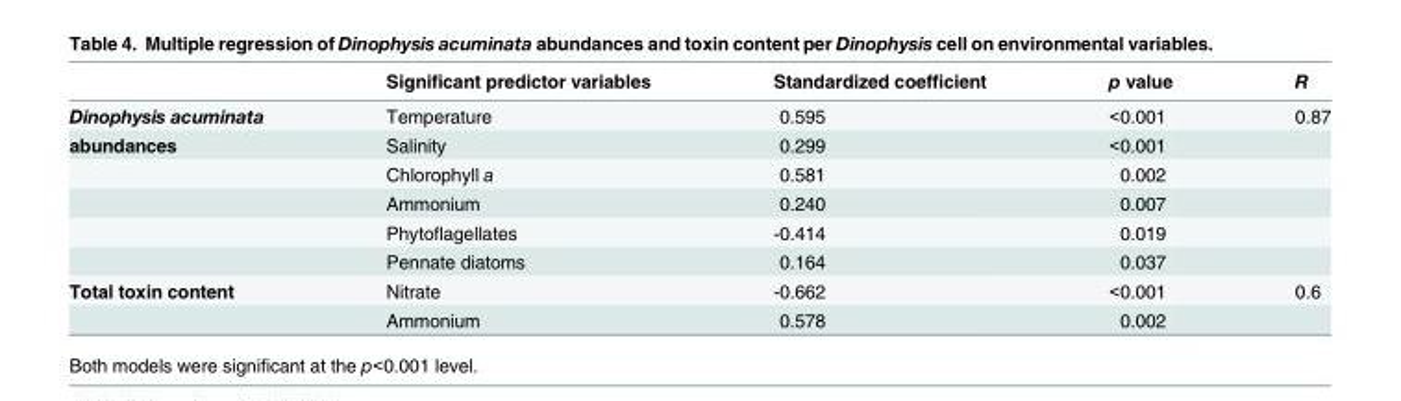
<table><thead><tr><td></td><td>Significant predictor variables</td><td>Standardized coefficient</td><td>p value</td><td>R</td></tr></thead><tbody><tr><td>Dinophysis acuminata</td><td>Temperature</td><td>0.595</td><td>&lt;0.001</td><td>0.87</td></tr><tr><td rowspan="5">abundances</td><td>Salinity</td><td>0.299</td><td>&lt;0.001</td><td></td></tr><tr><td>Chlorophyll a</td><td>0.581</td><td>0.002</td><td></td></tr><tr><td>Ammonium</td><td>0.240</td><td>0.007</td><td></td></tr><tr><td>Phytoflagellates</td><td>-0.414</td><td>0.019</td><td></td></tr><tr><td>Pennate diatoms</td><td>0.164</td><td>0.037</td><td></td></tr><tr><td rowspan="2">Total toxin content</td><td>Nitrate</td><td>-0.662</td><td>&lt;0.001</td><td>0.6</td></tr><tr><td>Ammonium</td><td>0.578</td><td>0.002</td><td></td></tr></tbody></table>